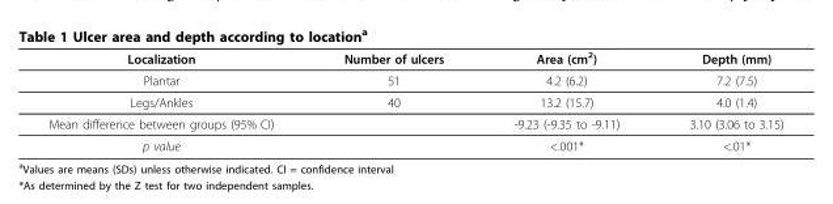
<table><thead><tr><td>Localization</td><td>Number of ulcers</td><td>Area (cm<sup>2</sup>)</td><td>Depth (mm)</td></tr></thead><tbody><tr><td>Plantar</td><td>51</td><td>4.2 (6.2)</td><td>7.2 (7.5)</td></tr><tr><td>Legs/Ankles</td><td>40</td><td>13.2 (15.7)</td><td>4.0 (1.4)</td></tr><tr><td>Mean difference between groups (95% CI)</td><td></td><td>-9.23 (-9.35 to -9.11)</td><td>3.10 (3.06 to 3.15)</td></tr><tr><td>p value</td><td></td><td>&lt;.001*</td><td>&lt;.01*</td></tr></tbody></table>